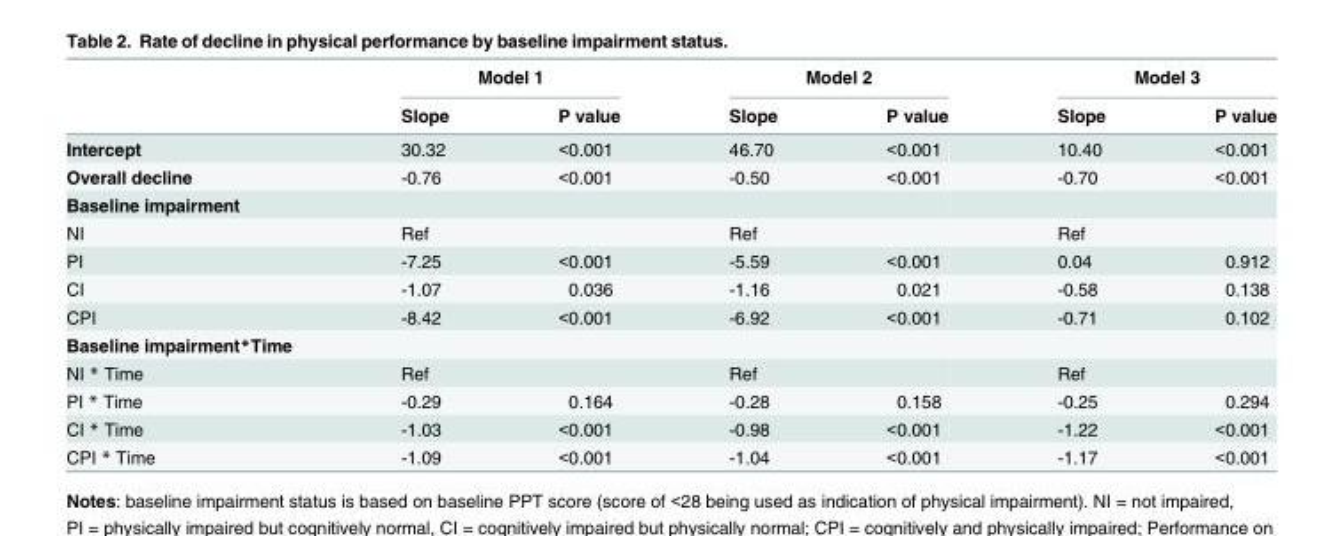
<table><thead><tr><td rowspan="2"></td><td colspan="2">Model 1</td><td colspan="2">Model 2</td><td colspan="2">Model 3</td></tr><tr><td>Slope</td><td>P value</td><td>Slope</td><td>P value</td><td>Slope</td><td>P value</td></tr></thead><tbody><tr><td>Intercept</td><td>30.32</td><td>&lt;0.001</td><td>46.70</td><td>&lt;0.001</td><td>10.40</td><td>&lt;0.001</td></tr><tr><td>Overall decline</td><td>-0.76</td><td>&lt;0.001</td><td>-0.50</td><td>&lt;0.001</td><td>-0.70</td><td>&lt;0.001</td></tr><tr><td colspan="7">Baseline impairment</td></tr><tr><td>NI</td><td>Ref</td><td></td><td>Ref</td><td></td><td>Ref</td><td></td></tr><tr><td>PI</td><td>-7.25</td><td>&lt;0.001</td><td>-5.59</td><td>&lt;0.001</td><td>0.04</td><td>0.912</td></tr><tr><td>CI</td><td>-1.07</td><td>0.036</td><td>-1.16</td><td>0.021</td><td>-0.58</td><td>0.138</td></tr><tr><td>CPI</td><td>-8.42</td><td>&lt;0.001</td><td>-6.92</td><td>&lt;0.001</td><td>-0.71</td><td>0.102</td></tr><tr><td colspan="7">Baseline impairment*Time</td></tr><tr><td>NI * Time</td><td>Ref</td><td></td><td>Ref</td><td></td><td>Ref</td><td></td></tr><tr><td>PI * Time</td><td>-0.29</td><td>0.164</td><td>-0.28</td><td>0.158</td><td>-0.25</td><td>0.294</td></tr><tr><td>CI * Time</td><td>-1.03</td><td>&lt;0.001</td><td>-0.98</td><td>&lt;0.001</td><td>-1.22</td><td>&lt;0.001</td></tr><tr><td>CPI * Time</td><td>-1.09</td><td>&lt;0.001</td><td>-1.04</td><td>&lt;0.001</td><td>-1.17</td><td>&lt;0.001</td></tr></tbody></table>